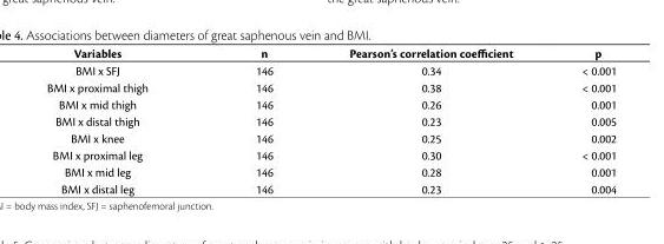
<table><thead><tr><td>Variables</td><td>n</td><td>Pearson’s correlation coefficient</td><td>p</td></tr></thead><tbody><tr><td>BMI x SFJ</td><td>146</td><td>0.34</td><td>&lt; 0.001</td></tr><tr><td>BMI x proximal thigh</td><td>146</td><td>0.38</td><td>&lt; 0.001</td></tr><tr><td>BMI x mid thigh</td><td>146</td><td>0.26</td><td>0.001</td></tr><tr><td>BMI x distal thigh</td><td>146</td><td>0.23</td><td>0.005</td></tr><tr><td>BMI x knee</td><td>146</td><td>0.25</td><td>0.002</td></tr><tr><td>BMI x proximal leg</td><td>146</td><td>0.30</td><td>&lt; 0.001</td></tr><tr><td>BMI x mid leg</td><td>146</td><td>0.28</td><td>0.001</td></tr><tr><td>BMI x distal leg</td><td>146</td><td>0.23</td><td>0.004</td></tr></tbody></table>